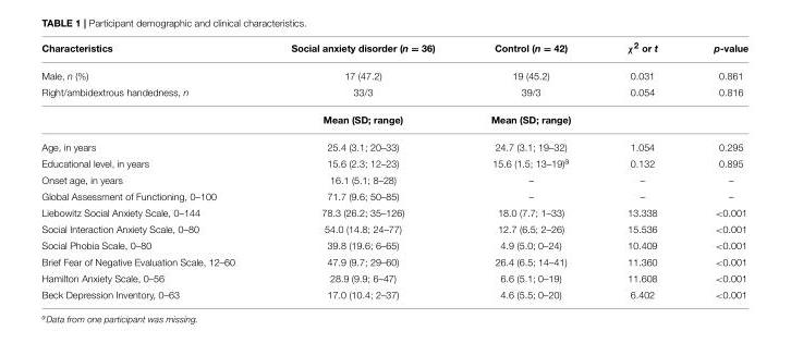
<table><thead><tr><td>Characteristics</td><td>Social anxiety disorder (n = 36)</td><td>Control (n = 42)</td><td>χ<sup>2</sup> or t</td><td>p-value</td></tr></thead><tbody><tr><td>Male, n (%)</td><td>17 (47.2)</td><td>19 (45.2)</td><td>0.031</td><td>0.861</td></tr><tr><td rowspan="2">Right/ambidextrous handedness, n</td><td>33/3</td><td>39/3</td><td>0.054</td><td>0.816</td></tr><tr><td>Mean (SD; range)</td><td>Mean (SD; range)</td><td></td><td></td></tr><tr><td>Age, in years</td><td>25.4 (3.1; 20–33)</td><td>24.7 (3.1; 19–32)</td><td>1.054</td><td>0.295</td></tr><tr><td>Educational level, in years</td><td>15.6 (2.3; 12–23)</td><td>15.6 (1.5; 13–19)<sup>a</sup></td><td>0.132</td><td>0.895</td></tr><tr><td>Onset age, in years</td><td>16.1 (5.1; 8–28)</td><td>–</td><td>–</td><td>–</td></tr><tr><td>Global Assessment of Functioning, 0–100</td><td>71.7 (9.6; 50–85)</td><td>–</td><td>–</td><td>–</td></tr><tr><td>Liebowitz Social Anxiety Scale, 0–144</td><td>78.3 (26.2; 35–126)</td><td>18.0 (7.7; 1–33)</td><td>13.338</td><td>&lt;0.001</td></tr><tr><td>Social Interaction Anxiety Scale, 0–80</td><td>54.0 (14.8; 24–77)</td><td>12.7 (6.5; 2–26)</td><td>15.536</td><td>&lt;0.001</td></tr><tr><td>Social Phobia Scale, 0–80</td><td>39.8 (19.6; 6–65)</td><td>4.9 (5.0; 0–24)</td><td>10.409</td><td>&lt;0.001</td></tr><tr><td>Brief Fear of Negative Evaluation Scale, 12–60</td><td>47.9 (9.7; 29–60)</td><td>26.4 (6.5; 14–41)</td><td>11.360</td><td>&lt;0.001</td></tr><tr><td>Hamilton Anxiety Scale, 0–56</td><td>28.9 (9.9; 6–47)</td><td>6.6 (5.1; 0–19)</td><td>11.608</td><td>&lt;0.001</td></tr><tr><td>Beck Depression Inventory, 0–63</td><td>17.0 (10.4; 2–37)</td><td>4.6 (5.5; 0–20)</td><td>6.402</td><td>&lt;0.001</td></tr></tbody></table>